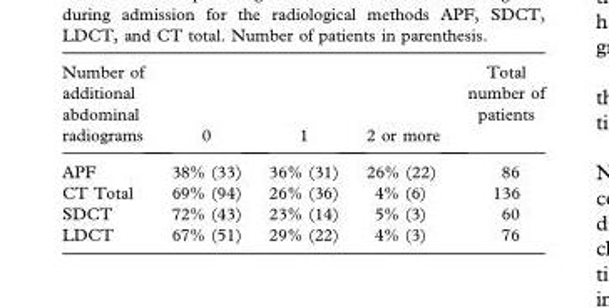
<table><thead><tr><td>Number of additional abdominal radiograms</td><td>0</td><td>1</td><td>2 or more</td><td>Total number of patients</td></tr></thead><tbody><tr><td>APF</td><td>38% (33)</td><td>36% (31)</td><td>26% (22)</td><td>86</td></tr><tr><td>CT Total</td><td>69% (94)</td><td>26% (36)</td><td>4% (6)</td><td>136</td></tr><tr><td>SDCT</td><td>72% (43)</td><td>23% (14)</td><td>5% (3)</td><td>60</td></tr><tr><td>LDCT</td><td>67% (51)</td><td>29% (22)</td><td>4% (3)</td><td>76</td></tr></tbody></table>